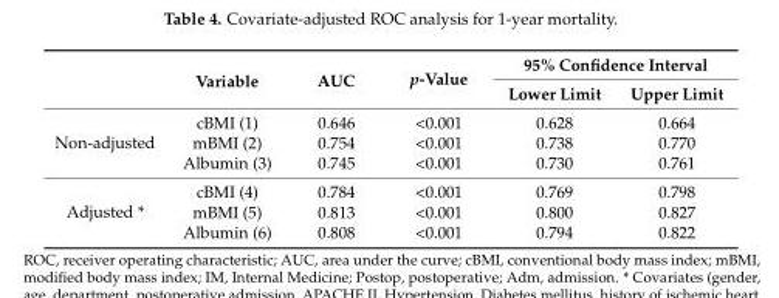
<table><thead><tr><td rowspan="2"></td><td rowspan="2">Variable</td><td rowspan="2">AUC</td><td rowspan="2">p-Value</td><td colspan="2">95% Confidence Interval</td></tr><tr><td>Lower Limit</td><td>Upper Limit</td></tr></thead><tbody><tr><td rowspan="3">Non-adjusted</td><td>cBMI (1)</td><td>0.646</td><td>&lt;0.001</td><td>0.628</td><td>0.664</td></tr><tr><td>mBMI (2)</td><td>0.754</td><td>&lt;0.001</td><td>0.738</td><td>0.770</td></tr><tr><td>Albumin (3)</td><td>0.745</td><td>&lt;0.001</td><td>0.730</td><td>0.761</td></tr><tr><td rowspan="3">Adjusted *</td><td>cBMI (4)</td><td>0.784</td><td>&lt;0.001</td><td>0.769</td><td>0.798</td></tr><tr><td>mBMI (5)</td><td>0.813</td><td>&lt;0.001</td><td>0.800</td><td>0.827</td></tr><tr><td>Albumin (6)</td><td>0.808</td><td>&lt;0.001</td><td>0.794</td><td>0.822</td></tr></tbody></table>